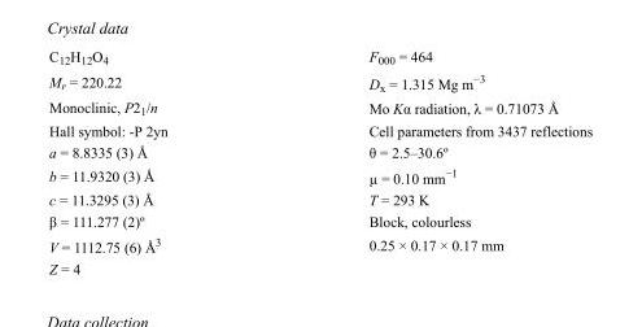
<table><tbody><tr><td>C<sub>12</sub>H<sub>12</sub>O<sub>4</sub></td><td>F000 = 464</td></tr><tr><td>M<sub>r</sub> = 220.22</td><td>D<sub>x</sub> = 1.315 Mg m<sup>−3</sup></td></tr><tr><td>Monoclinic, P2<sub>1</sub>/n</td><td>Mo Kα radiation, λ = 0.71073 Å</td></tr><tr><td>Hall symbol: -P 2yn</td><td>Cell parameters from 3437 reflections</td></tr><tr><td>a = 8.8335 (3) Å</td><td>θ = 2.5–30.6º</td></tr><tr><td>b = 11.9320 (3) Å</td><td>µ = 0.10 mm<sup>−1</sup></td></tr><tr><td>c = 11.3295 (3) Å</td><td>T = 293 K</td></tr><tr><td>β = 111.277 (2)º</td><td>Block, colourless</td></tr><tr><td>V = 1112.75 (6) Å<sup>3</sup></td><td>0.25 × 0.17 × 0.17 mm</td></tr><tr><td>Z = 4</td><td></td></tr></tbody></table>